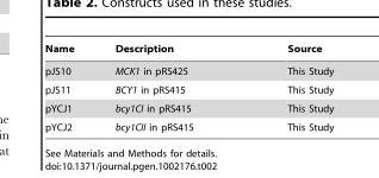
<table><thead><tr><td>Name</td><td>Description</td><td>Source</td></tr></thead><tbody><tr><td>pJS10</td><td>MCK1 in pRS425</td><td>This Study</td></tr><tr><td>pJS11</td><td>BCY1 in pRS415</td><td>This Study</td></tr><tr><td>pYCJ1</td><td>bcy1CI in pRS415</td><td>This Study</td></tr><tr><td>pYCJ2</td><td>bcy1CII in pRS415</td><td>This Study</td></tr></tbody></table>